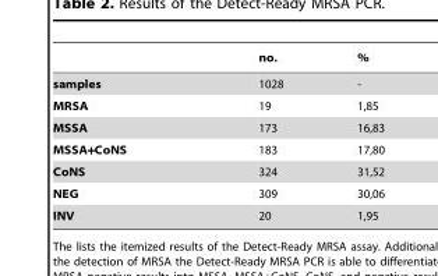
<table><thead><tr><td></td><td>no.</td><td>%</td></tr></thead><tbody><tr><td>samples</td><td>1028</td><td>-</td></tr><tr><td>MRSA</td><td>19</td><td>1,85</td></tr><tr><td>MSSA</td><td>173</td><td>16,83</td></tr><tr><td>MSSA+CoNS</td><td>183</td><td>17,80</td></tr><tr><td>CoNS</td><td>324</td><td>31,52</td></tr><tr><td>NEG</td><td>309</td><td>30,06</td></tr><tr><td>INV</td><td>20</td><td>1,95</td></tr></tbody></table>